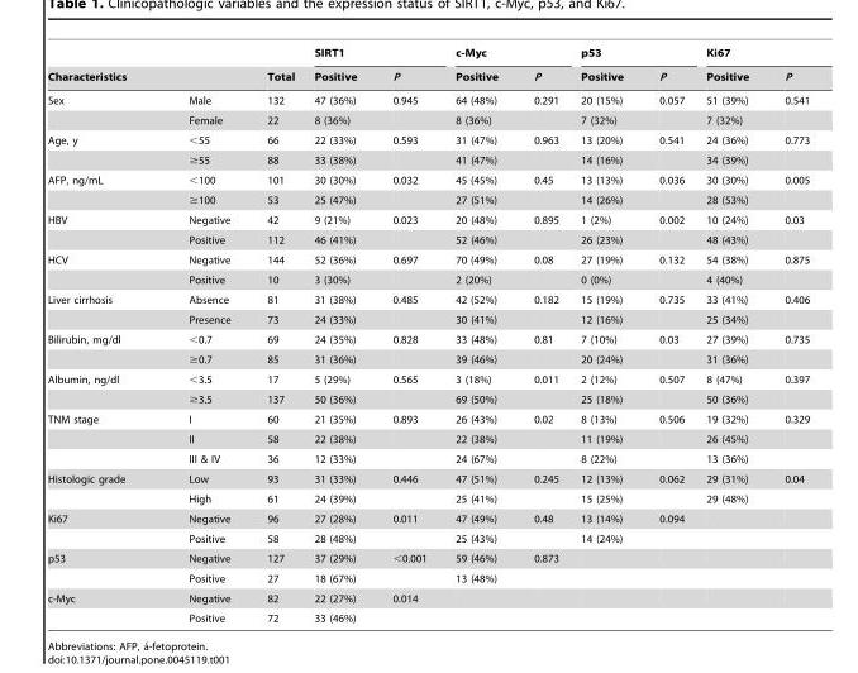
<table><thead><tr><td></td><td></td><td rowspan="2">Total</td><td colspan="2">SIRT1</td><td colspan="2">c-Myc</td><td colspan="2">p53</td><td colspan="2">Ki67</td></tr><tr><td colspan="2">Characteristics</td><td>Positive</td><td>P</td><td>Positive</td><td>P</td><td>Positive</td><td>P</td><td>Positive</td><td>P</td></tr></thead><tbody><tr><td rowspan="2">Sex</td><td>Male</td><td>132</td><td>47 (36%)</td><td>0.945</td><td>64 (48%)</td><td>0.291</td><td>20 (15%)</td><td>0.057</td><td>51 (39%)</td><td>0.541</td></tr><tr><td>Female</td><td>22</td><td>8 (36%)</td><td></td><td>8 (36%)</td><td></td><td>7 (32%)</td><td></td><td>7 (32%)</td><td></td></tr><tr><td rowspan="2">Age, y</td><td>&lt;55</td><td>66</td><td>22 (33%)</td><td>0.593</td><td>31 (47%)</td><td>0.963</td><td>13 (20%)</td><td>0.541</td><td>24 (36%)</td><td>0.773</td></tr><tr><td>≥55</td><td>88</td><td>33 (38%)</td><td></td><td>41 (47%)</td><td></td><td>14 (16%)</td><td></td><td>34 (39%)</td><td></td></tr><tr><td rowspan="2">AFP, ng/mL</td><td>&lt;100</td><td>101</td><td>30 (30%)</td><td>0.032</td><td>45 (45%)</td><td>0.45</td><td>13 (13%)</td><td>0.036</td><td>30 (30%)</td><td>0.005</td></tr><tr><td>≥100</td><td>53</td><td>25 (47%)</td><td></td><td>27 (51%)</td><td></td><td>14 (26%)</td><td></td><td>28 (53%)</td><td></td></tr><tr><td rowspan="2">HBV</td><td>Negative</td><td>42</td><td>9 (21%)</td><td>0.023</td><td>20 (48%)</td><td>0.895</td><td>1 (2%)</td><td>0.002</td><td>10 (24%)</td><td>0.03</td></tr><tr><td>Positive</td><td>112</td><td>46 (41%)</td><td></td><td>52 (46%)</td><td></td><td>26 (23%)</td><td></td><td>48 (43%)</td><td></td></tr><tr><td rowspan="2">HCV</td><td>Negative</td><td>144</td><td>52 (36%)</td><td>0.697</td><td>70 (49%)</td><td>0.08</td><td>27 (19%)</td><td>0.132</td><td>54 (38%)</td><td>0.875</td></tr><tr><td>Positive</td><td>10</td><td>3 (30%)</td><td></td><td>2 (20%)</td><td></td><td>0 (0%)</td><td></td><td>4 (40%)</td><td></td></tr><tr><td rowspan="2">Liver cirrhosis</td><td>Absence</td><td>81</td><td>31 (38%)</td><td>0.485</td><td>42 (52%)</td><td>0.182</td><td>15 (19%)</td><td>0.735</td><td>33 (41%)</td><td>0.406</td></tr><tr><td>Presence</td><td>73</td><td>24 (33%)</td><td></td><td>30 (41%)</td><td></td><td>12 (16%)</td><td></td><td>25 (34%)</td><td></td></tr><tr><td rowspan="2">Bilirubin, mg/dl</td><td>&lt;0.7</td><td>69</td><td>24 (35%)</td><td>0.828</td><td>33 (48%)</td><td>0.81</td><td>7 (10%)</td><td>0.03</td><td>27 (39%)</td><td>0.735</td></tr><tr><td>≥0.7</td><td>85</td><td>31 (36%)</td><td></td><td>39 (46%)</td><td></td><td>20 (24%)</td><td></td><td>31 (36%)</td><td></td></tr><tr><td rowspan="2">Albumin, ng/dl</td><td>&lt;3.5</td><td>17</td><td>5 (29%)</td><td>0.565</td><td>3 (18%)</td><td>0.011</td><td>2 (12%)</td><td>0.507</td><td>8 (47%)</td><td>0.397</td></tr><tr><td>≥3.5</td><td>137</td><td>50 (36%)</td><td></td><td>69 (50%)</td><td></td><td>25 (18%)</td><td></td><td>50 (36%)</td><td></td></tr><tr><td rowspan="3">TNM stage</td><td>I</td><td>60</td><td>21 (35%)</td><td>0.893</td><td>26 (43%)</td><td>0.02</td><td>8 (13%)</td><td>0.506</td><td>19 (32%)</td><td>0.329</td></tr><tr><td>II</td><td>58</td><td>22 (38%)</td><td></td><td>22 (38%)</td><td></td><td>11 (19%)</td><td></td><td>26 (45%)</td><td></td></tr><tr><td>III &amp; IV</td><td>36</td><td>12 (33%)</td><td></td><td>24 (67%)</td><td></td><td>8 (22%)</td><td></td><td>13 (36%)</td><td></td></tr><tr><td rowspan="2">Histologic grade</td><td>Low</td><td>93</td><td>31 (33%)</td><td>0.446</td><td>47 (51%)</td><td>0.245</td><td>12 (13%)</td><td>0.062</td><td>29 (31%)</td><td>0.04</td></tr><tr><td>High</td><td>61</td><td>24 (39%)</td><td></td><td>25 (41%)</td><td></td><td>15 (25%)</td><td></td><td>29 (48%)</td><td></td></tr><tr><td rowspan="2">Ki67</td><td>Negative</td><td>96</td><td>27 (28%)</td><td>0.011</td><td>47 (49%)</td><td>0.48</td><td>13 (14%)</td><td>0.094</td><td></td><td></td></tr><tr><td>Positive</td><td>58</td><td>28 (48%)</td><td></td><td>25 (43%)</td><td></td><td>14 (24%)</td><td></td><td></td><td></td></tr><tr><td rowspan="2">p53</td><td>Negative</td><td>127</td><td>37 (29%)</td><td>&lt;0.001</td><td>59 (46%)</td><td>0.873</td><td></td><td></td><td></td><td></td></tr><tr><td>Positive</td><td>27</td><td>18 (67%)</td><td></td><td>13 (48%)</td><td></td><td></td><td></td><td></td><td></td></tr><tr><td rowspan="2">c-Myc</td><td>Negative</td><td>82</td><td>22 (27%)</td><td>0.014</td><td></td><td></td><td></td><td></td><td></td><td></td></tr><tr><td>Positive</td><td>72</td><td>33 (46%)</td><td></td><td></td><td></td><td></td><td></td><td></td><td></td></tr></tbody></table>